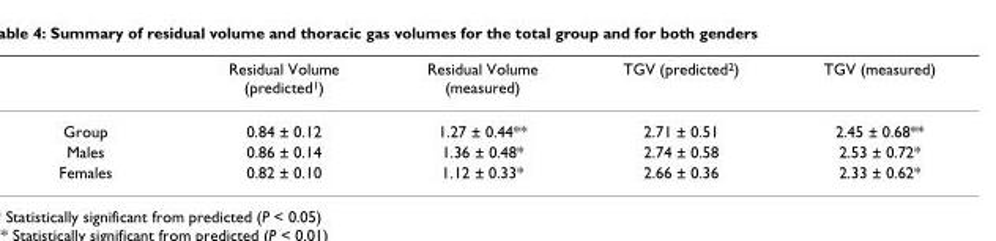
<table><thead><tr><td></td><td>Residual Volume (predicted<sup>1</sup>)</td><td>Residual Volume (measured)</td><td>TGV (predicted<sup>2</sup>)</td><td>TGV (measured)</td></tr></thead><tbody><tr><td>Group</td><td>0.84 ± 0.12</td><td>1.27 ± 0.44**</td><td>2.71 ± 0.51</td><td>2.45 ± 0.68**</td></tr><tr><td>Males</td><td>0.86 ± 0.14</td><td>1.36 ± 0.48*</td><td>2.74 ± 0.58</td><td>2.53 ± 0.72*</td></tr><tr><td>Females</td><td>0.82 ± 0.10</td><td>1.12 ± 0.33*</td><td>2.66 ± 0.36</td><td>2.33 ± 0.62*</td></tr></tbody></table>